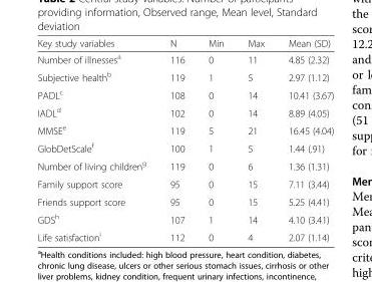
<table><thead><tr><td>Key study variables</td><td>N</td><td>Min</td><td>Max</td><td>Mean (SD)</td></tr></thead><tbody><tr><td>Number of illnesses<sup>a</sup></td><td>116</td><td>0</td><td>11</td><td>4.85 (2.32)</td></tr><tr><td>Subjective health<sup>b</sup></td><td>119</td><td>1</td><td>5</td><td>2.97 (1.12)</td></tr><tr><td>PADL<sup>c</sup></td><td>108</td><td>0</td><td>14</td><td>10.41 (3.67)</td></tr><tr><td>IADL<sup>d</sup></td><td>102</td><td>0</td><td>14</td><td>8.89 (4.05)</td></tr><tr><td>MMSE<sup>e</sup></td><td>119</td><td>5</td><td>21</td><td>16.45 (4.04)</td></tr><tr><td>GlobDetScale<sup>f</sup></td><td>100</td><td>1</td><td>5</td><td>1.44 (.91)</td></tr><tr><td>Number of living children<sup>g</sup></td><td>119</td><td>0</td><td>6</td><td>1.36 (1.31)</td></tr><tr><td>Family support score</td><td>95</td><td>0</td><td>15</td><td>7.11 (3.44)</td></tr><tr><td>Friends support score</td><td>95</td><td>0</td><td>15</td><td>5.25 (4.41)</td></tr><tr><td>GDS<sup>h</sup></td><td>107</td><td>1</td><td>14</td><td>4.10 (3.41)</td></tr><tr><td>Life satisfaction<sup>i</sup></td><td>112</td><td>0</td><td>4</td><td>2.07 (1.14)</td></tr></tbody></table>